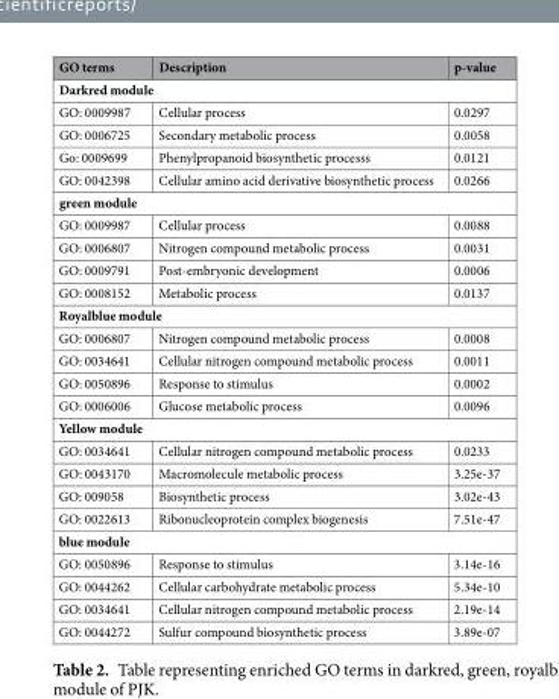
<table><thead><tr><td>GO terms</td><td>Description</td><td>p-value</td></tr></thead><tbody><tr><td colspan="3">Darkred module</td></tr><tr><td>GO: 0009987</td><td>Cellular process</td><td>0.0297</td></tr><tr><td>GO: 0006725</td><td>Secondary metabolic process</td><td>0.0058</td></tr><tr><td>Go: 0009699</td><td>Phenylpropanoid biosynthetic processs</td><td>0.0121</td></tr><tr><td>GO: 0042398</td><td>Cellular amino acid derivative biosynthetic process</td><td>0.0266</td></tr><tr><td colspan="3">green module</td></tr><tr><td>GO: 0009987</td><td>Cellular process</td><td>0.0088</td></tr><tr><td>GO: 0006807</td><td>Nitrogen compound metabolic process</td><td>0.0031</td></tr><tr><td>GO: 0009791</td><td>Post-embryonic development</td><td>0.0006</td></tr><tr><td>GO: 0008152</td><td>Metabolic process</td><td>0.0137</td></tr><tr><td colspan="3">Royalblue module</td></tr><tr><td>GO: 0006807</td><td>Nitrogen compound metabolic process</td><td>0.0008</td></tr><tr><td>GO: 0034641</td><td>Cellular nitrogen compound metabolic process</td><td>0.0011</td></tr><tr><td>GO: 0050896</td><td>Response to stimulus</td><td>0.0002</td></tr><tr><td>GO: 0006006</td><td>Glucose metabolic process</td><td>0.0096</td></tr><tr><td colspan="3">Yellow module</td></tr><tr><td>GO: 0034641</td><td>Cellular nitrogen compound metabolic process</td><td>0.0233</td></tr><tr><td>GO: 0043170</td><td>Macromolecule metabolic process</td><td>3.25e-37</td></tr><tr><td>GO: 009058</td><td>Biosynthetic process</td><td>3.02e-43</td></tr><tr><td>GO: 0022613</td><td>Ribonucleoprotein complex biogenesis</td><td>7.51e-47</td></tr><tr><td colspan="3">blue module</td></tr><tr><td>GO: 0050896</td><td>Response to stimulus</td><td>3.14e-16</td></tr><tr><td>GO: 0044262</td><td>Cellular carbohydrate metabolic process</td><td>5.34e-10</td></tr><tr><td>GO: 0034641</td><td>Cellular nitrogen compound metabolic process</td><td>2.19e-14</td></tr><tr><td>GO: 0044272</td><td>Sulfur compound biosynthetic process</td><td>3.89e-07</td></tr></tbody></table>